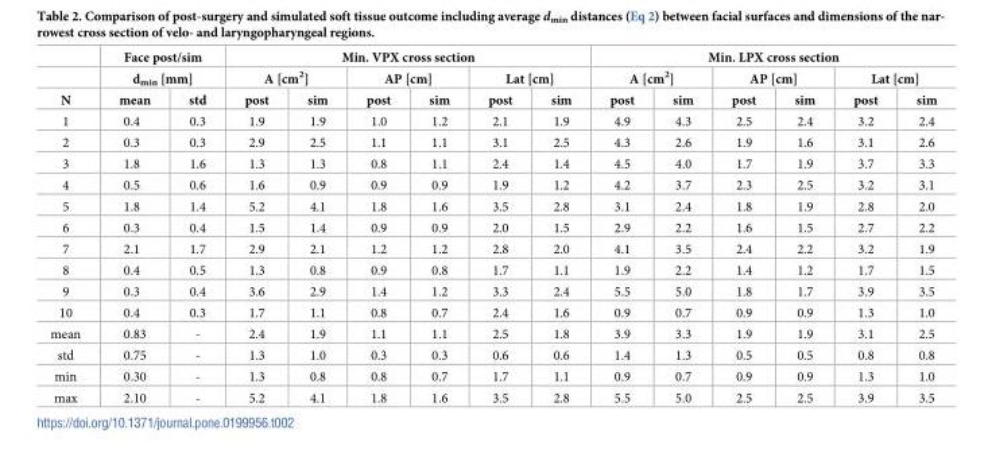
<table><thead><tr><td rowspan="3">N</td><td rowspan="2" colspan="2">Face post/sim d<sub>min</sub> [mm]</td><td colspan="6">Min. VPX cross section</td><td colspan="6">Min. LPX cross section</td></tr><tr><td colspan="2">A [cm<sup>2</sup>]</td><td colspan="2">AP [cm]</td><td colspan="2">Lat [cm]</td><td colspan="2">A [cm<sup>2</sup>]</td><td colspan="2">AP [cm]</td><td colspan="2">Lat [cm]</td></tr><tr><td>mean</td><td>std</td><td>post</td><td>sim</td><td>post</td><td>sim</td><td>post</td><td>sim</td><td>post</td><td>sim</td><td>post</td><td>sim</td><td>post</td><td>sim</td></tr></thead><tbody><tr><td>1</td><td>0.4</td><td>0.3</td><td>1.9</td><td>1.9</td><td>1.0</td><td>1.2</td><td>2.1</td><td>1.9</td><td>4.9</td><td>4.3</td><td>2.5</td><td>2.4</td><td>3.2</td><td>2.4</td></tr><tr><td>2</td><td>0.3</td><td>0.3</td><td>2.9</td><td>2.5</td><td>1.1</td><td>1.1</td><td>3.1</td><td>2.5</td><td>4.3</td><td>2.6</td><td>1.9</td><td>1.6</td><td>3.1</td><td>2.6</td></tr><tr><td>3</td><td>1.8</td><td>1.6</td><td>1.3</td><td>1.3</td><td>0.8</td><td>1.1</td><td>2.4</td><td>1.4</td><td>4.5</td><td>4.0</td><td>1.7</td><td>1.9</td><td>3.7</td><td>3.3</td></tr><tr><td>4</td><td>0.5</td><td>0.6</td><td>1.6</td><td>0.9</td><td>0.9</td><td>0.9</td><td>1.9</td><td>1.2</td><td>4.2</td><td>3.7</td><td>2.3</td><td>2.5</td><td>3.2</td><td>3.1</td></tr><tr><td>5</td><td>1.8</td><td>1.4</td><td>5.2</td><td>4.1</td><td>1.8</td><td>1.6</td><td>3.5</td><td>2.8</td><td>3.1</td><td>2.4</td><td>1.8</td><td>1.9</td><td>2.8</td><td>2.0</td></tr><tr><td>6</td><td>0.3</td><td>0.4</td><td>1.5</td><td>1.4</td><td>0.9</td><td>0.9</td><td>2.0</td><td>1.5</td><td>2.9</td><td>2.2</td><td>1.6</td><td>1.5</td><td>2.7</td><td>2.2</td></tr><tr><td>7</td><td>2.1</td><td>1.7</td><td>2.9</td><td>2.1</td><td>1.2</td><td>1.2</td><td>2.8</td><td>2.0</td><td>4.1</td><td>3.5</td><td>2.4</td><td>2.2</td><td>3.2</td><td>1.9</td></tr><tr><td>8</td><td>0.4</td><td>0.5</td><td>1.3</td><td>0.8</td><td>0.9</td><td>0.8</td><td>1.7</td><td>1.1</td><td>1.9</td><td>2.2</td><td>1.4</td><td>1.2</td><td>1.7</td><td>1.5</td></tr><tr><td>9</td><td>0.3</td><td>0.4</td><td>3.6</td><td>2.9</td><td>1.4</td><td>1.2</td><td>3.3</td><td>2.4</td><td>5.5</td><td>5.0</td><td>1.8</td><td>1.7</td><td>3.9</td><td>3.5</td></tr><tr><td>10</td><td>0.4</td><td>0.3</td><td>1.7</td><td>1.1</td><td>0.8</td><td>0.7</td><td>2.4</td><td>1.6</td><td>0.9</td><td>0.7</td><td>0.9</td><td>0.9</td><td>1.3</td><td>1.0</td></tr><tr><td>mean</td><td>0.83</td><td>-</td><td>2.4</td><td>1.9</td><td>1.1</td><td>1.1</td><td>2.5</td><td>1.8</td><td>3.9</td><td>3.3</td><td>1.9</td><td>1.9</td><td>3.1</td><td>2.5</td></tr><tr><td>std</td><td>0.75</td><td>-</td><td>1.3</td><td>1.0</td><td>0.3</td><td>0.3</td><td>0.6</td><td>0.6</td><td>1.4</td><td>1.3</td><td>0.5</td><td>0.5</td><td>0.8</td><td>0.8</td></tr><tr><td>min</td><td>0.30</td><td>-</td><td>1.3</td><td>0.8</td><td>0.8</td><td>0.7</td><td>1.7</td><td>1.1</td><td>0.9</td><td>0.7</td><td>0.9</td><td>0.9</td><td>1.3</td><td>1.0</td></tr><tr><td>max</td><td>2.10</td><td>-</td><td>5.2</td><td>4.1</td><td>1.8</td><td>1.6</td><td>3.5</td><td>2.8</td><td>5.5</td><td>5.0</td><td>2.5</td><td>2.5</td><td>3.9</td><td>3.5</td></tr></tbody></table>